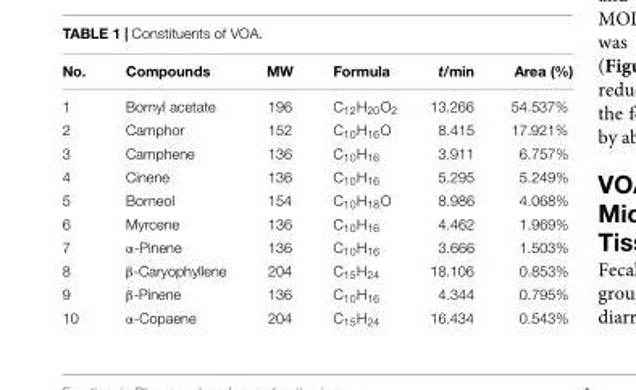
<table><thead><tr><td>No.</td><td>Compounds</td><td>MW</td><td>Formula</td><td>t/min</td><td>Area (%)</td></tr></thead><tbody><tr><td>1</td><td>Bornyl acetate</td><td>196</td><td>C<sub>12</sub>H<sub>20</sub>O<sub>2</sub></td><td>13.266</td><td>54.537%</td></tr><tr><td>2</td><td>Camphor</td><td>152</td><td>C<sub>10</sub>H<sub>16</sub>O</td><td>8.415</td><td>17.921%</td></tr><tr><td>3</td><td>Camphene</td><td>136</td><td>C<sub>10</sub>H<sub>16</sub></td><td>3.911</td><td>6.757%</td></tr><tr><td>4</td><td>Cinene</td><td>136</td><td>C<sub>10</sub>H<sub>16</sub></td><td>5.295</td><td>5.249%</td></tr><tr><td>5</td><td>Borneol</td><td>154</td><td>C<sub>10</sub>H<sub>18</sub>O</td><td>8.986</td><td>4.068%</td></tr><tr><td>6</td><td>Myrcene</td><td>136</td><td>C<sub>10</sub>H<sub>16</sub></td><td>4.462</td><td>1.969%</td></tr><tr><td>7</td><td>α-Pinene</td><td>136</td><td>C<sub>10</sub>H<sub>16</sub></td><td>3.666</td><td>1.503%</td></tr><tr><td>8</td><td>β-Caryophyllene</td><td>204</td><td>C<sub>15</sub>H<sub>24</sub></td><td>18.106</td><td>0.853%</td></tr><tr><td>9</td><td>β-Pinene</td><td>136</td><td>C<sub>10</sub>H<sub>16</sub></td><td>4.344</td><td>0.795%</td></tr><tr><td>10</td><td>α-Copaene</td><td>204</td><td>C<sub>15</sub>H<sub>24</sub></td><td>16.434</td><td>0.543%</td></tr></tbody></table>